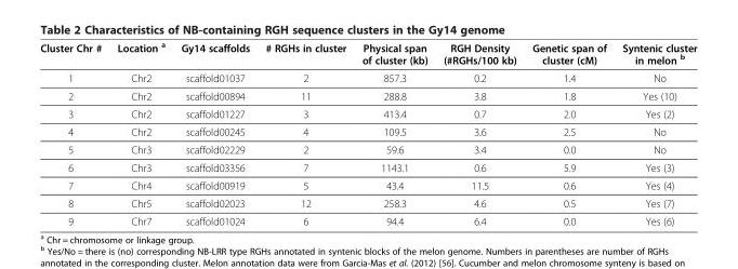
<table><thead><tr><td>Cluster Chr #</td><td>Location <sup>a</sup></td><td>Gy14 scaffolds</td><td># RGHs in cluster</td><td>Physical span of cluster (kb)</td><td>RGH Density (#RGHs/100 kb)</td><td>Genetic span of cluster (cM)</td><td>Syntenic cluster in melon <sup>b</sup></td></tr></thead><tbody><tr><td>1</td><td>Chr2</td><td>scaffold01037</td><td>2</td><td>857.3</td><td>0.2</td><td>1.4</td><td>No</td></tr><tr><td>2</td><td>Chr2</td><td>scaffold00894</td><td>11</td><td>288.8</td><td>3.8</td><td>1.8</td><td>Yes (10)</td></tr><tr><td>3</td><td>Chr2</td><td>scaffold01227</td><td>3</td><td>413.4</td><td>0.7</td><td>2.0</td><td>Yes (2)</td></tr><tr><td>4</td><td>Chr2</td><td>scaffold00245</td><td>4</td><td>109.5</td><td>3.6</td><td>2.5</td><td>No</td></tr><tr><td>5</td><td>Chr3</td><td>scaffold02229</td><td>2</td><td>59.6</td><td>3.4</td><td>0.0</td><td>No</td></tr><tr><td>6</td><td>Chr3</td><td>scaffold03356</td><td>7</td><td>1143.1</td><td>0.6</td><td>5.9</td><td>Yes (3)</td></tr><tr><td>7</td><td>Chr4</td><td>scaffold00919</td><td>5</td><td>43.4</td><td>11.5</td><td>0.6</td><td>Yes (4)</td></tr><tr><td>8</td><td>Chr5</td><td>scaffold02023</td><td>12</td><td>258.3</td><td>4.6</td><td>0.5</td><td>Yes (7)</td></tr><tr><td>9</td><td>Chr7</td><td>scaffold01024</td><td>6</td><td>94.4</td><td>6.4</td><td>0.0</td><td>Yes (6)</td></tr></tbody></table>